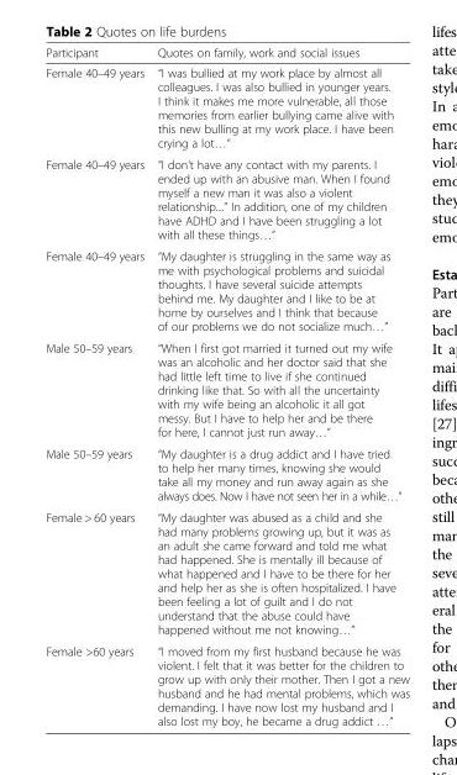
<table><thead><tr><td>Participant</td><td>Quotes on family, work and social issues</td></tr></thead><tbody><tr><td>Female 40–49 years</td><td>“I was bullied at my work place by almost all colleagues. I was also bullied in younger years. I think it makes me more vulnerable, all those memories from earlier bullying came alive with this new bulling at my work place. I have been crying a lot…”</td></tr><tr><td>Female 40–49 years</td><td>“I don’t have any contact with my parents. I ended up with an abusive man. When I found myself a new man it was also a violent relationship....” In addition, one of my children have ADHD and I have been struggling a lot with all these things…”</td></tr><tr><td>Female 40–49 years</td><td>“My daughter is struggling in the same way as me with psychological problems and suicidal thoughts. I have several suicide attempts behind me. My daughter and I like to be at home by ourselves and I think that because of our problems we do not socialize much…”</td></tr><tr><td>Male 50–59 years</td><td>“When I first got married it turned out my wife was an alcoholic and her doctor said that she had little left time to live if she continued drinking like that. So with all the uncertainty with my wife being an alcoholic it all got messy. But I have to help her and be there for here, I cannot just run away…”</td></tr><tr><td>Male 50–59 years</td><td>“My daughter is a drug addict and I have tried to help her many times, knowing she would take all my money and run away again as she always does. Now I have not seen her in a while…”</td></tr><tr><td>Female &gt; 60 years</td><td>“My daughter was abused as a child and she had many problems growing up, but it was as an adult she came forward and told me what had happened. She is mentally ill because of what happened and I have to be there for her and help her as she is often hospitalized. I have been feeling a lot of guilt and I do not understand that the abuse could have happened without me not knowing…”</td></tr><tr><td>Female &gt;60 years</td><td>“I moved from my first husband because he was violent. I felt that it was better for the children to grow up with only their mother. Then I got a new husband and he had mental problems, which was demanding. I have now lost my husband and I also lost my boy, he became a drug addict …”</td></tr></tbody></table>